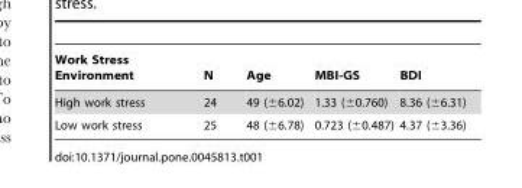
<table><thead><tr><td>Work Stress Environment</td><td>N</td><td>Age</td><td>MBI-GS</td><td>BDI</td></tr></thead><tbody><tr><td>High work stress</td><td>24</td><td>49 (±6.02)</td><td>1.33 (±0.760)</td><td>8.36 (±6.31)</td></tr><tr><td>Low work stress</td><td>25</td><td>48 (±6.78)</td><td>0.723 (±0.487)</td><td>4.37 (±3.36)</td></tr></tbody></table>